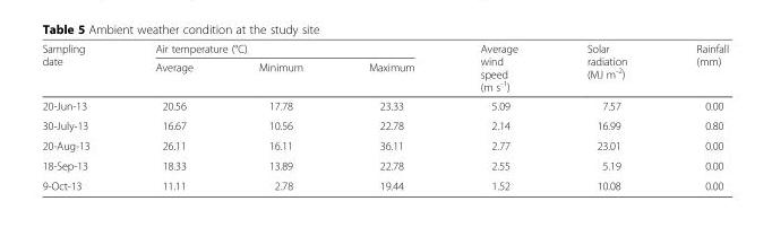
<table><thead><tr><td rowspan="2">Sampling date</td><td colspan="3">Air temperature (°C)</td><td rowspan="2">Average wind speed (m s<sup>-1</sup>)</td><td rowspan="2">Solar radiation (MJ m<sup>-2</sup>)</td><td rowspan="2">Rainfall (mm)</td></tr><tr><td>Average</td><td>Minimum</td><td>Maximum</td></tr></thead><tbody><tr><td>20-Jun-13</td><td>20.56</td><td>17.78</td><td>23.33</td><td>5.09</td><td>7.57</td><td>0.00</td></tr><tr><td>30-July-13</td><td>16.67</td><td>10.56</td><td>22.78</td><td>2.14</td><td>16.99</td><td>0.80</td></tr><tr><td>20-Aug-13</td><td>26.11</td><td>16.11</td><td>36.11</td><td>2.77</td><td>23.01</td><td>0.00</td></tr><tr><td>18-Sep-13</td><td>18.33</td><td>13.89</td><td>22.78</td><td>2.55</td><td>5.19</td><td>0.00</td></tr><tr><td>9-Oct-13</td><td>11.11</td><td>2.78</td><td>19.44</td><td>1.52</td><td>10.08</td><td>0.00</td></tr></tbody></table>